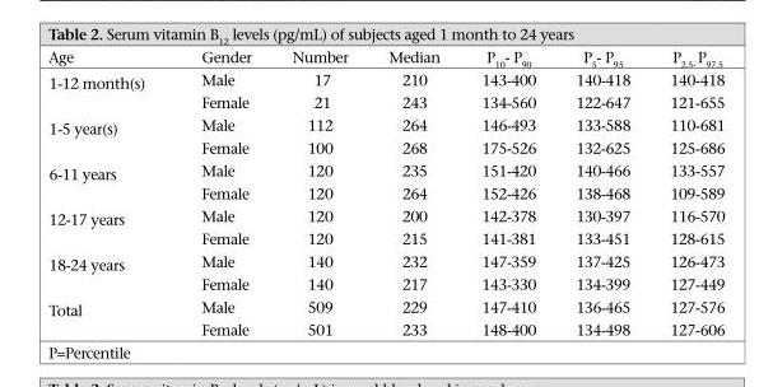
<table><thead><tr><td>Age</td><td>Gender</td><td>Number</td><td>Median</td><td>P<sub>10</sub>- P<sub>90</sub></td><td>P<sub>5</sub>- P<sub>95</sub></td><td>P<sub>2.5</sub>- P<sub>97.5</sub></td></tr></thead><tbody><tr><td rowspan="2">1-12 month(s)</td><td>Male</td><td>17</td><td>210</td><td>143-400</td><td>140-418</td><td>140-418</td></tr><tr><td>Female</td><td>21</td><td>243</td><td>134-560</td><td>122-647</td><td>121-655</td></tr><tr><td rowspan="2">1-5 year(s)</td><td>Male</td><td>112</td><td>264</td><td>146-493</td><td>133-588</td><td>110-681</td></tr><tr><td>Female</td><td>100</td><td>268</td><td>175-526</td><td>132-625</td><td>125-686</td></tr><tr><td rowspan="2">6-11 years</td><td>Male</td><td>120</td><td>235</td><td>151-420</td><td>140-466</td><td>133-557</td></tr><tr><td>Female</td><td>120</td><td>264</td><td>152-426</td><td>138-468</td><td>109-589</td></tr><tr><td rowspan="2">12-17 years</td><td>Male</td><td>120</td><td>200</td><td>142-378</td><td>130-397</td><td>116-570</td></tr><tr><td>Female</td><td>120</td><td>215</td><td>141-381</td><td>133-451</td><td>128-615</td></tr><tr><td rowspan="2">18-24 years</td><td>Male</td><td>140</td><td>232</td><td>147-359</td><td>137-425</td><td>126-473</td></tr><tr><td>Female</td><td>140</td><td>217</td><td>143-330</td><td>134-399</td><td>127-449</td></tr><tr><td rowspan="2">Total</td><td>Male</td><td>509</td><td>229</td><td>147-410</td><td>136-465</td><td>127-576</td></tr><tr><td>Female</td><td>501</td><td>233</td><td>148-400</td><td>134-498</td><td>127-606</td></tr></tbody></table>